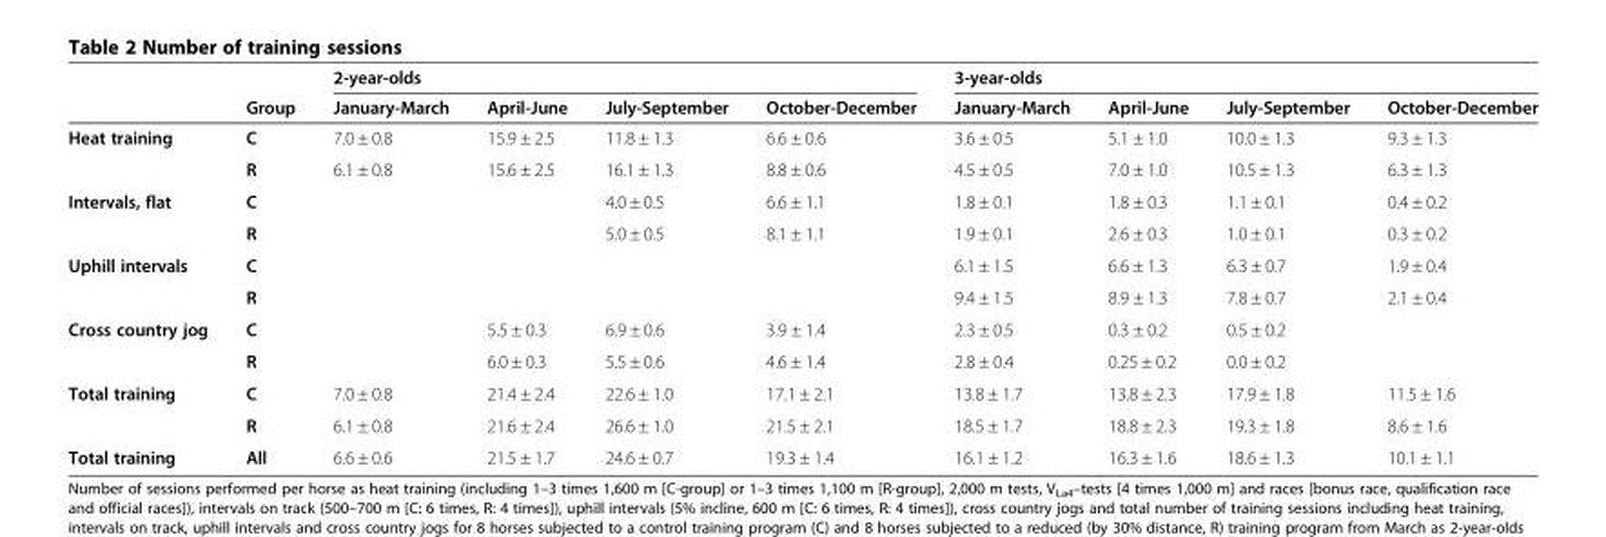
<table><thead><tr><td rowspan="2"></td><td rowspan="2">Group</td><td colspan="4">2-year-olds</td><td colspan="4">3-year-olds</td></tr><tr><td>January-March</td><td>April-June</td><td>July-September</td><td>October-December</td><td>January-March</td><td>April-June</td><td>July-September</td><td>October-December</td></tr></thead><tbody><tr><td rowspan="2">Heat training</td><td>C</td><td>7.0 ± 0.8</td><td>15.9 ± 2.5</td><td>11.8 ± 1.3</td><td>6.6 ± 0.6</td><td>3.6 ± 0.5</td><td>5.1 ± 1.0</td><td>10.0 ± 1.3</td><td>9.3 ± 1.3</td></tr><tr><td>R</td><td>6.1 ± 0.8</td><td>15.6 ± 2.5</td><td>16.1 ± 1.3</td><td>8.8 ± 0.6</td><td>4.5 ± 0.5</td><td>7.0 ± 1.0</td><td>10.5 ± 1.3</td><td>6.3 ± 1.3</td></tr><tr><td rowspan="2">Intervals, flat</td><td>C</td><td></td><td></td><td>4.0 ± 0.5</td><td>6.6 ± 1.1</td><td>1.8 ± 0.1</td><td>1.8 ± 0.3</td><td>1.1 ± 0.1</td><td>0.4 ± 0.2</td></tr><tr><td>R</td><td></td><td></td><td>5.0 ± 0.5</td><td>8.1 ± 1.1</td><td>1.9 ± 0.1</td><td>2.6 ± 0.3</td><td>1.0 ± 0.1</td><td>0.3 ± 0.2</td></tr><tr><td rowspan="2">Uphill intervals</td><td>C</td><td></td><td></td><td></td><td></td><td>6.1 ± 1.5</td><td>6.6 ± 1.3</td><td>6.3 ± 0.7</td><td>1.9 ± 0.4</td></tr><tr><td>R</td><td></td><td></td><td></td><td></td><td>9.4 ± 1.5</td><td>8.9 ± 1.3</td><td>7.8 ± 0.7</td><td>2.1 ± 0.4</td></tr><tr><td rowspan="2">Cross country jog</td><td>C</td><td></td><td>5.5 ± 0.3</td><td>6.9 ± 0.6</td><td>3.9 ± 1.4</td><td>2.3 ± 0.5</td><td>0.3 ± 0.2</td><td>0.5 ± 0.2</td><td></td></tr><tr><td>R</td><td></td><td>6.0 ± 0.3</td><td>5.5 ± 0.6</td><td>4.6 ± 1.4</td><td>2.8 ± 0.4</td><td>0.25 ± 0.2</td><td>0.0 ± 0.2</td><td></td></tr><tr><td rowspan="2">Total training</td><td>C</td><td>7.0 ± 0.8</td><td>21.4 ± 2.4</td><td>22.6 ± 1.0</td><td>17.1 ± 2.1</td><td>13.8 ± 1.7</td><td>13.8 ± 2.3</td><td>17.9 ± 1.8</td><td>11.5 ± 1.6</td></tr><tr><td>R</td><td>6.1 ± 0.8</td><td>21.6 ± 2.4</td><td>26.6 ± 1.0</td><td>21.5 ± 2.1</td><td>18.5 ± 1.7</td><td>18.8 ± 2.3</td><td>19.3 ± 1.8</td><td>8.6 ± 1.6</td></tr><tr><td>Total training</td><td>All</td><td>6.6 ± 0.6</td><td>21.5 ± 1.7</td><td>24.6 ± 0.7</td><td>19.3 ± 1.4</td><td>16.1 ± 1.2</td><td>16.3 ± 1.6</td><td>18.6 ± 1.3</td><td>10.1 ± 1.1</td></tr></tbody></table>